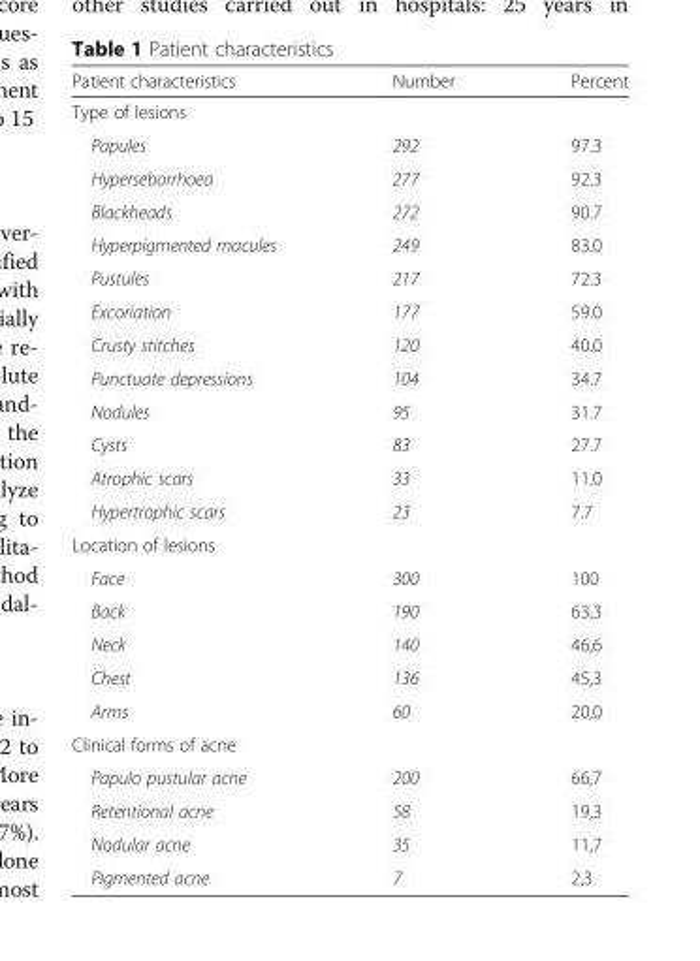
<table><thead><tr><td>Patient characteristics</td><td>Number</td><td>Percent</td></tr></thead><tbody><tr><td colspan="3">Type of lesions</td></tr><tr><td>Papules</td><td>292</td><td>97.3</td></tr><tr><td>Hyperseborrhoea</td><td>277</td><td>92.3</td></tr><tr><td>Blackheads</td><td>272</td><td>90.7</td></tr><tr><td>Hyperpigmented macules</td><td>249</td><td>83.0</td></tr><tr><td>Pustules</td><td>217</td><td>72.3</td></tr><tr><td>Excoriation</td><td>177</td><td>59.0</td></tr><tr><td>Crusty stitches</td><td>120</td><td>40.0</td></tr><tr><td>Punctuate depressions</td><td>104</td><td>34.7</td></tr><tr><td>Nodules</td><td>95</td><td>31.7</td></tr><tr><td>Cysts</td><td>83</td><td>27.7</td></tr><tr><td>Atrophic scars</td><td>33</td><td>11.0</td></tr><tr><td>Hypertrophic scars</td><td>23</td><td>7.7</td></tr><tr><td colspan="3">Location of lesions</td></tr><tr><td>Face</td><td>300</td><td>100</td></tr><tr><td>Back</td><td>190</td><td>63,3</td></tr><tr><td>Neck</td><td>140</td><td>46,6</td></tr><tr><td>Chest</td><td>136</td><td>45,3</td></tr><tr><td>Arms</td><td>60</td><td>20,0</td></tr><tr><td colspan="3">Clinical forms of acne</td></tr><tr><td>Papulo pustular acne</td><td>200</td><td>66,7</td></tr><tr><td>Retentional acne</td><td>58</td><td>19,3</td></tr><tr><td>Nodular acne</td><td>35</td><td>11,7</td></tr><tr><td>Pigmented acne</td><td>7</td><td>2,3</td></tr></tbody></table>